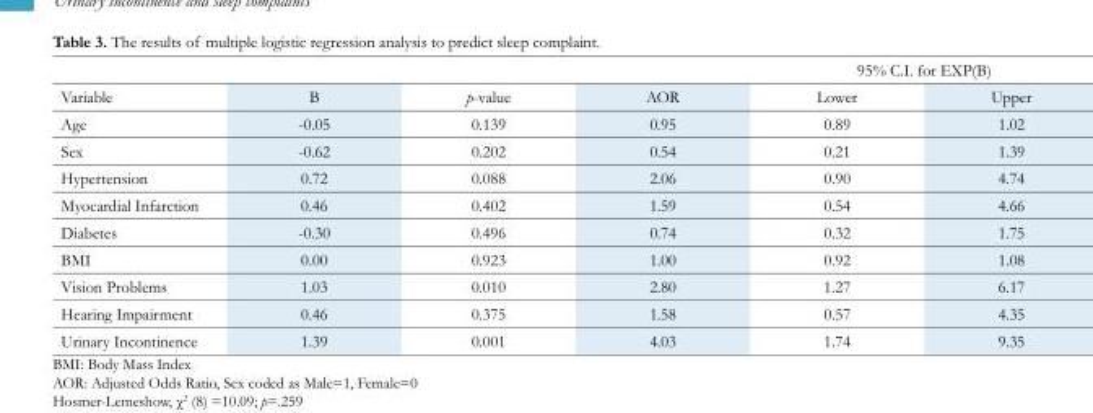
<table><thead><tr><td rowspan="2">Variable</td><td rowspan="2">B</td><td rowspan="2">p-value</td><td rowspan="2">AOR</td><td colspan="2">95% C.I. for EXP(B)</td></tr><tr><td>Lower</td><td>Upper</td></tr></thead><tbody><tr><td>Age</td><td>-0.05</td><td>0.139</td><td>0.95</td><td>0.89</td><td>1.02</td></tr><tr><td>Sex</td><td>-0.62</td><td>0.202</td><td>0.54</td><td>0.21</td><td>1.39</td></tr><tr><td>Hypertension</td><td>0.72</td><td>0.088</td><td>2.06</td><td>0.90</td><td>4.74</td></tr><tr><td>Myocardial Infarction</td><td>0.46</td><td>0.402</td><td>1.59</td><td>0.54</td><td>4.66</td></tr><tr><td>Diabetes</td><td>-0.30</td><td>0.496</td><td>0.74</td><td>0.32</td><td>1.75</td></tr><tr><td>BMI</td><td>0.00</td><td>0.923</td><td>1.00</td><td>0.92</td><td>1.08</td></tr><tr><td>Vision Problems</td><td>1.03</td><td>0.010</td><td>2.80</td><td>1.27</td><td>6.17</td></tr><tr><td>Hearing Impairment</td><td>0.46</td><td>0.375</td><td>1.58</td><td>0.57</td><td>4.35</td></tr><tr><td>Urinary Incontinence</td><td>1.39</td><td>0.001</td><td>4.03</td><td>1.74</td><td>9.35</td></tr></tbody></table>